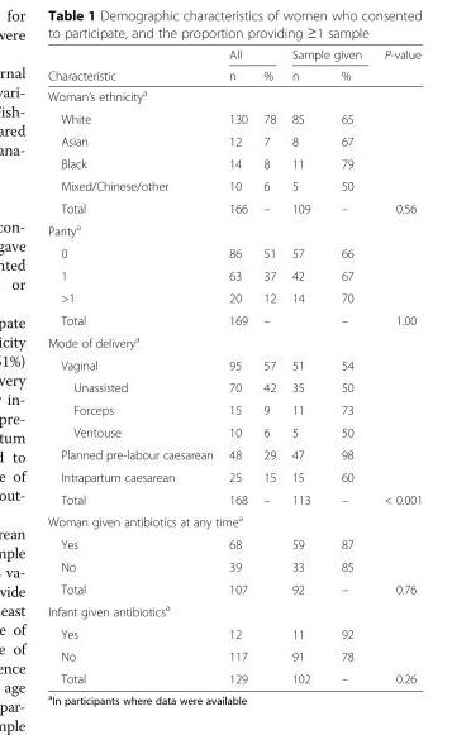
<table><thead><tr><td rowspan="2">Characteristic</td><td colspan="2">All</td><td colspan="2">Sample given</td><td rowspan="2">P-value</td></tr><tr><td>n</td><td>%</td><td>n</td><td>%</td></tr></thead><tbody><tr><td colspan="6">Woman’s ethnicity<sup>a</sup></td></tr><tr><td>White</td><td>130</td><td>78</td><td>85</td><td>65</td><td></td></tr><tr><td>Asian</td><td>12</td><td>7</td><td>8</td><td>67</td><td></td></tr><tr><td>Black</td><td>14</td><td>8</td><td>11</td><td>79</td><td></td></tr><tr><td>Mixed/Chinese/other</td><td>10</td><td>6</td><td>5</td><td>50</td><td></td></tr><tr><td>Total</td><td>166</td><td>–</td><td>109</td><td>–</td><td>0.56</td></tr><tr><td colspan="6">Parity<sup>a</sup></td></tr><tr><td>0</td><td>86</td><td>51</td><td>57</td><td>66</td><td></td></tr><tr><td>1</td><td>63</td><td>37</td><td>42</td><td>67</td><td></td></tr><tr><td>&gt;1</td><td>20</td><td>12</td><td>14</td><td>70</td><td></td></tr><tr><td>Total</td><td>169</td><td>–</td><td></td><td>–</td><td>1.00</td></tr><tr><td colspan="6">Mode of delivery<sup>a</sup></td></tr><tr><td>Vaginal</td><td>95</td><td>57</td><td>51</td><td>54</td><td></td></tr><tr><td>Unassisted</td><td>70</td><td>42</td><td>35</td><td>50</td><td></td></tr><tr><td>Forceps</td><td>15</td><td>9</td><td>11</td><td>73</td><td></td></tr><tr><td>Ventouse</td><td>10</td><td>6</td><td>5</td><td>50</td><td></td></tr><tr><td>Planned pre-labour caesarean</td><td>48</td><td>29</td><td>47</td><td>98</td><td></td></tr><tr><td>Intrapartum caesarean</td><td>25</td><td>15</td><td>15</td><td>60</td><td></td></tr><tr><td>Total</td><td>168</td><td>–</td><td>113</td><td>–</td><td>&lt; 0.001</td></tr><tr><td colspan="6">Woman given antibiotics at any time<sup>a</sup></td></tr><tr><td>Yes</td><td>68</td><td></td><td>59</td><td>87</td><td></td></tr><tr><td>No</td><td>39</td><td></td><td>33</td><td>85</td><td></td></tr><tr><td>Total</td><td>107</td><td></td><td>92</td><td>–</td><td>0.76</td></tr><tr><td colspan="6">Infant given antibiotics<sup>a</sup></td></tr><tr><td>Yes</td><td>12</td><td></td><td>11</td><td>92</td><td></td></tr><tr><td>No</td><td>117</td><td></td><td>91</td><td>78</td><td></td></tr><tr><td>Total</td><td>129</td><td></td><td>102</td><td>–</td><td>0.26</td></tr></tbody></table>